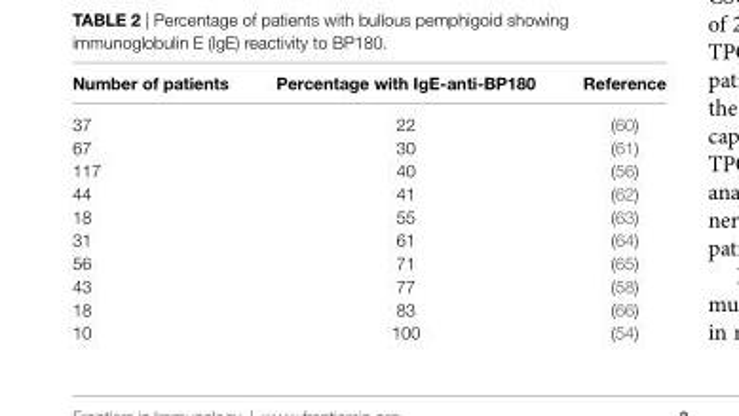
<table><thead><tr><td>Number of patients</td><td>Percentage with ige-anti-bP180</td><td>Reference</td></tr></thead><tbody><tr><td>37</td><td>22</td><td>(60)</td></tr><tr><td>67</td><td>30</td><td>(61)</td></tr><tr><td>117</td><td>40</td><td>(56)</td></tr><tr><td>44</td><td>41</td><td>(62)</td></tr><tr><td>18</td><td>55</td><td>(63)</td></tr><tr><td>31</td><td>61</td><td>(64)</td></tr><tr><td>56</td><td>71</td><td>(65)</td></tr><tr><td>43</td><td>77</td><td>(58)</td></tr><tr><td>18</td><td>83</td><td>(66)</td></tr><tr><td>10</td><td>100</td><td>(54)</td></tr></tbody></table>